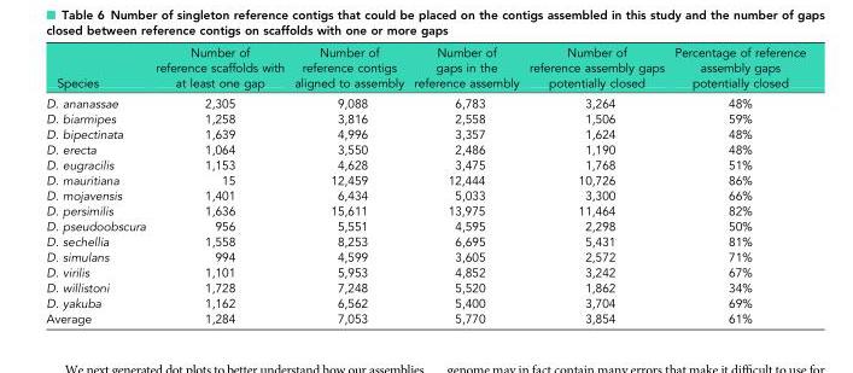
<table><thead><tr><td>Species</td><td>Number of reference scaffolds with at least one gap</td><td>Number of reference contigs aligned to assembly</td><td>Number of gaps in the reference assembly</td><td>Number of reference assembly gaps potentially closed</td><td>Percentage of reference assembly gaps potentially closed</td></tr></thead><tbody><tr><td>D. ananassae</td><td>2,305</td><td>9,088</td><td>6,783</td><td>3,264</td><td>48%</td></tr><tr><td>D. biarmipes</td><td>1,258</td><td>3,816</td><td>2,558</td><td>1,506</td><td>59%</td></tr><tr><td>D. bipectinata</td><td>1,639</td><td>4,996</td><td>3,357</td><td>1,624</td><td>48%</td></tr><tr><td>D. erecta</td><td>1,064</td><td>3,550</td><td>2,486</td><td>1,190</td><td>48%</td></tr><tr><td>D. eugracilis</td><td>1,153</td><td>4,628</td><td>3,475</td><td>1,768</td><td>51%</td></tr><tr><td>D. mauritiana</td><td>15</td><td>12,459</td><td>12,444</td><td>10,726</td><td>86%</td></tr><tr><td>D. mojavensis</td><td>1,401</td><td>6,434</td><td>5,033</td><td>3,300</td><td>66%</td></tr><tr><td>D. persimilis</td><td>1,636</td><td>15,611</td><td>13,975</td><td>11,464</td><td>82%</td></tr><tr><td>D. pseudoobscura</td><td>956</td><td>5,551</td><td>4,595</td><td>2,298</td><td>50%</td></tr><tr><td>D. sechellia</td><td>1,558</td><td>8,253</td><td>6,695</td><td>5,431</td><td>81%</td></tr><tr><td>D. simulans</td><td>994</td><td>4,599</td><td>3,605</td><td>2,572</td><td>71%</td></tr><tr><td>D. virilis</td><td>1,101</td><td>5,953</td><td>4,852</td><td>3,242</td><td>67%</td></tr><tr><td>D. willistoni</td><td>1,728</td><td>7,248</td><td>5,520</td><td>1,862</td><td>34%</td></tr><tr><td>D. yakuba</td><td>1,162</td><td>6,562</td><td>5,400</td><td>3,704</td><td>69%</td></tr><tr><td>Average</td><td>1,284</td><td>7,053</td><td>5,770</td><td>3,854</td><td>61%</td></tr></tbody></table>